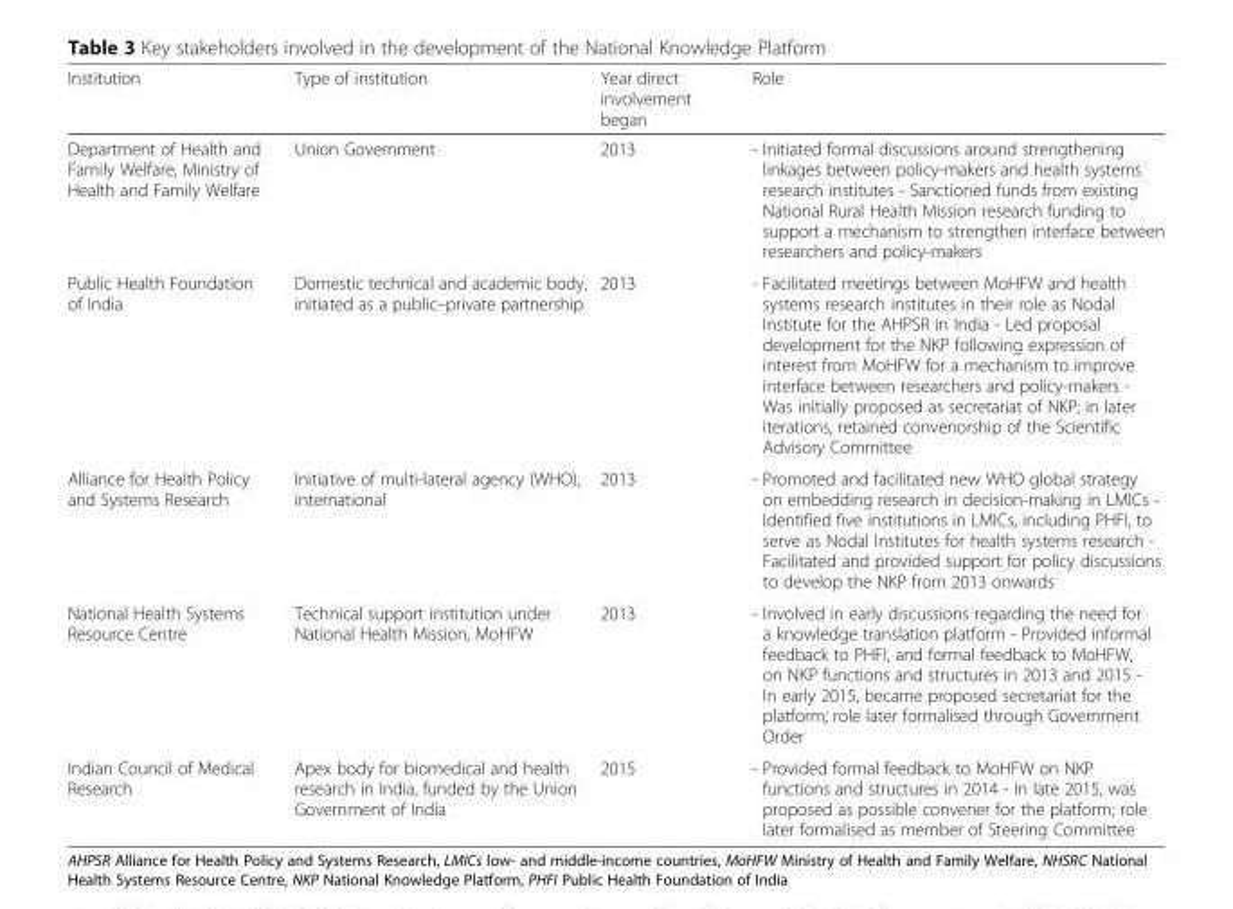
<table><thead><tr><td>Institution</td><td>Type of institution</td><td>Year direct involvement began</td><td>Role</td></tr></thead><tbody><tr><td>Department of Health and Family Welfare, Ministry of Health and Family Welfare</td><td>Union Government</td><td>2013</td><td>- Initiated formal discussions around strengthening linkages between policy-makers and health systems research institutes - Sanctioned funds from existing National Rural Health Mission research funding to support a mechanism to strengthen interface between researchers and policy-makers</td></tr><tr><td>Public Health Foundation of India</td><td>Domestic technical and academic body, initiated as a public–private partnership</td><td>2013</td><td>- Facilitated meetings between MoHFW and health systems research institutes in their role as Nodal Institute for the AHPSR in India - Led proposal development for the NKP following expression of interest from MoHFW for a mechanism to improve interface between researchers and policy-makers - Was initially proposed as secretariat of NKP; in later iterations, retained convenorship of the Scientific Advisory Committee</td></tr><tr><td>Alliance for Health Policy and Systems Research</td><td>Initiative of multi-lateral agency (WHO), international</td><td>2013</td><td>- Promoted and facilitated new WHO global strategy on embedding research in decision-making in LMICs - Identified five institutions in LMICs, including PHFI, to serve as Nodal Institutes for health systems research - Facilitated and provided support for policy discussions to develop the NKP from 2013 onwards</td></tr><tr><td>National Health Systems Resource Centre</td><td>Technical support institution under National Health Mission, MoHFW</td><td>2013</td><td>- Involved in early discussions regarding the need for a knowledge translation platform - Provided informal feedback to PHFI, and formal feedback to MoHFW, on NKP functions and structures in 2013 and 2015 - In early 2015, became proposed secretariat for the platform; role later formalised through Government Order</td></tr><tr><td>Indian Council of Medical Research</td><td>Apex body for biomedical and health research in India, funded by the Union Government of India</td><td>2015</td><td>- Provided formal feedback to MoHFW on NKP functions and structures in 2014 - In late 2015, was proposed as possible convener for the platform; role later formalised as member of Steering Committee</td></tr></tbody></table>